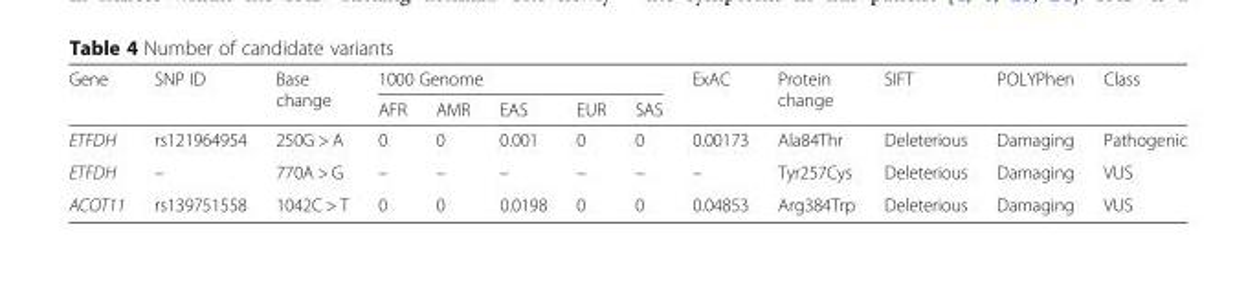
<table><thead><tr><td rowspan="2">Gene</td><td rowspan="2">SNP ID</td><td rowspan="2">Base change</td><td colspan="5">1000 Genome</td><td rowspan="2">ExAC</td><td rowspan="2">Protein change</td><td rowspan="2">SIFT</td><td rowspan="2">POLYPhen</td><td rowspan="2">Class</td></tr><tr><td>AFR</td><td>AMR</td><td>EAS</td><td>EUR</td><td>SAS</td></tr></thead><tbody><tr><td>ETFDH</td><td>rs121964954</td><td>250G &gt; A</td><td>0</td><td>0</td><td>0.001</td><td>0</td><td>0</td><td>0.00173</td><td>Ala84Thr</td><td>Deleterious</td><td>Damaging</td><td>Pathogenic</td></tr><tr><td>ETFDH</td><td>–</td><td>770A &gt; G</td><td>–</td><td>–</td><td>–</td><td>–</td><td>–</td><td>–</td><td>Tyr257Cys</td><td>Deleterious</td><td>Damaging</td><td>VUS</td></tr><tr><td>ACOT11</td><td>rs139751558</td><td>1042C &gt; T</td><td>0</td><td>0</td><td>0.0198</td><td>0</td><td>0</td><td>0.04853</td><td>Arg384Trp</td><td>Deleterious</td><td>Damaging</td><td>VUS</td></tr></tbody></table>